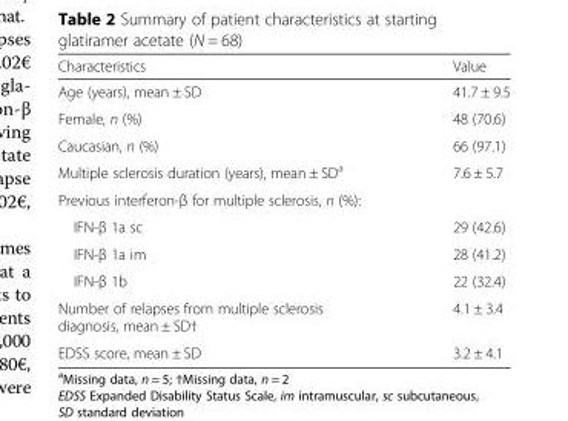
<table><thead><tr><td>Characteristics</td><td>Value</td></tr></thead><tbody><tr><td>Age (years), mean ± SD</td><td>41.7 ± 9.5</td></tr><tr><td>Female, n (%)</td><td>48 (70.6)</td></tr><tr><td>Caucasian, n (%)</td><td>66 (97.1)</td></tr><tr><td>Multiple sclerosis duration (years), mean ± SD<sup>a</sup></td><td>7.6 ± 5.7</td></tr><tr><td colspan="2">Previous interferon-β for multiple sclerosis, n (%):</td></tr><tr><td>IFN-β 1a sc</td><td>29 (42.6)</td></tr><tr><td>IFN-β 1a im</td><td>28 (41.2)</td></tr><tr><td>IFN-β 1b</td><td>22 (32.4)</td></tr><tr><td>Number of relapses from multiple sclerosis diagnosis, mean ± SD†</td><td>4.1 ± 3.4</td></tr><tr><td>EDSS score, mean ± SD</td><td>3.2 ± 4.1</td></tr></tbody></table>